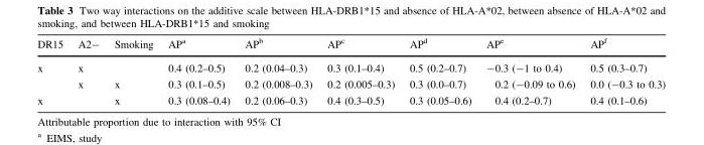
<table><thead><tr><td>DR15</td><td>A2-</td><td>Smoking</td><td>AP<sup>a</sup></td><td>AP<sup>b</sup></td><td>AP<sup>c</sup></td><td>AP<sup>d</sup></td><td>AP<sup>e</sup></td><td>AP<sup>f</sup></td></tr></thead><tbody><tr><td rowspan="2">x</td><td>x</td><td></td><td>0.4 (0.2–0.5)</td><td>0.2 (0.04–0.3)</td><td>0.3 (0.1–0.4)</td><td>0.5 (0.2–0.7)</td><td>-0.3 (-1 to 0.4)</td><td>0.5 (0.3–0.7)</td></tr><tr><td>x</td><td>x</td><td>0.3 (0.1–0.5)</td><td>0.2 (0.008–0.3)</td><td>0.2 (0.005–0.3)</td><td>0.3 (0.0–0.7)</td><td>0.2 (-0.09 to 0.6)</td><td>0.0 (-0.3 to 0.3)</td></tr><tr><td>x</td><td></td><td>x</td><td>0.3 (0.08–0.4)</td><td>0.2 (0.06–0.3)</td><td>0.4 (0.3–0.5)</td><td>0.3 (0.05–0.6)</td><td>0.4 (0.2–0.7)</td><td>0.4 (0.1–0.6)</td></tr></tbody></table>